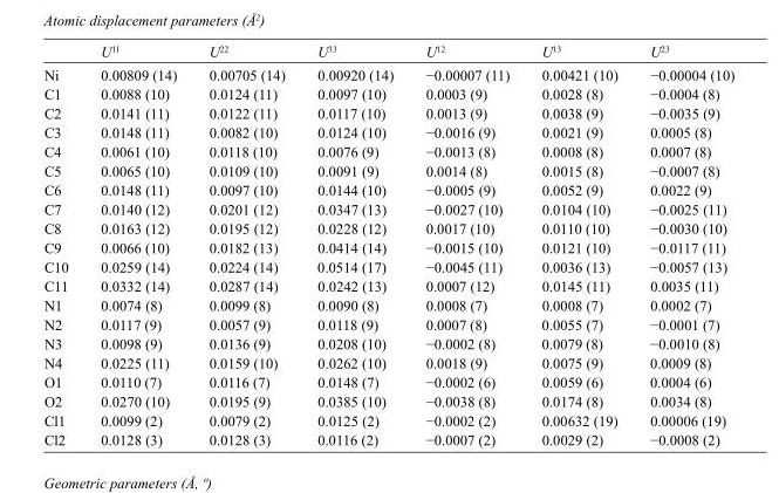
<table><thead><tr><td></td><td>U<sup>11</sup></td><td>U<sup>22</sup></td><td>U<sup>33</sup></td><td>U<sup>12</sup></td><td>U<sup>13</sup></td><td>U<sup>23</sup></td></tr></thead><tbody><tr><td>Ni</td><td>0.00809 (14)</td><td>0.00705 (14)</td><td>0.00920 (14)</td><td>−0.00007 (11)</td><td>0.00421 (10)</td><td>−0.00004 (10)</td></tr><tr><td>C1</td><td>0.0088 (10)</td><td>0.0124 (11)</td><td>0.0097 (10)</td><td>0.0003 (9)</td><td>0.0028 (8)</td><td>−0.0004 (8)</td></tr><tr><td>C2</td><td>0.0141 (11)</td><td>0.0122 (11)</td><td>0.0117 (10)</td><td>0.0013 (9)</td><td>0.0038 (9)</td><td>−0.0035 (9)</td></tr><tr><td>C3</td><td>0.0148 (11)</td><td>0.0082 (10)</td><td>0.0124 (10)</td><td>−0.0016 (9)</td><td>0.0021 (9)</td><td>0.0005 (8)</td></tr><tr><td>C4</td><td>0.0061 (10)</td><td>0.0118 (10)</td><td>0.0076 (9)</td><td>−0.0013 (8)</td><td>0.0008 (8)</td><td>0.0007 (8)</td></tr><tr><td>C5</td><td>0.0065 (10)</td><td>0.0109 (10)</td><td>0.0091 (9)</td><td>0.0014 (8)</td><td>0.0015 (8)</td><td>−0.0007 (8)</td></tr><tr><td>C6</td><td>0.0148 (11)</td><td>0.0097 (10)</td><td>0.0144 (10)</td><td>−0.0005 (9)</td><td>0.0052 (9)</td><td>0.0022 (9)</td></tr><tr><td>C7</td><td>0.0140 (12)</td><td>0.0201 (12)</td><td>0.0347 (13)</td><td>−0.0027 (10)</td><td>0.0104 (10)</td><td>−0.0025 (11)</td></tr><tr><td>C8</td><td>0.0163 (12)</td><td>0.0195 (12)</td><td>0.0228 (12)</td><td>0.0017 (10)</td><td>0.0110 (10)</td><td>−0.0030 (10)</td></tr><tr><td>C9</td><td>0.0066 (10)</td><td>0.0182 (13)</td><td>0.0414 (14)</td><td>−0.0015 (10)</td><td>0.0121 (10)</td><td>−0.0117 (11)</td></tr><tr><td>C10</td><td>0.0259 (14)</td><td>0.0224 (14)</td><td>0.0514 (17)</td><td>−0.0045 (11)</td><td>0.0036 (13)</td><td>−0.0057 (13)</td></tr><tr><td>C11</td><td>0.0332 (14)</td><td>0.0287 (14)</td><td>0.0242 (13)</td><td>0.0007 (12)</td><td>0.0145 (11)</td><td>0.0035 (11)</td></tr><tr><td>N1</td><td>0.0074 (8)</td><td>0.0099 (8)</td><td>0.0090 (8)</td><td>0.0008 (7)</td><td>0.0008 (7)</td><td>0.0002 (7)</td></tr><tr><td>N2</td><td>0.0117 (9)</td><td>0.0057 (9)</td><td>0.0118 (9)</td><td>0.0007 (8)</td><td>0.0055 (7)</td><td>−0.0001 (7)</td></tr><tr><td>N3</td><td>0.0098 (9)</td><td>0.0136 (9)</td><td>0.0208 (10)</td><td>−0.0002 (8)</td><td>0.0079 (8)</td><td>−0.0010 (8)</td></tr><tr><td>N4</td><td>0.0225 (11)</td><td>0.0159 (10)</td><td>0.0262 (10)</td><td>0.0018 (9)</td><td>0.0075 (9)</td><td>0.0009 (8)</td></tr><tr><td>O1</td><td>0.0110 (7)</td><td>0.0116 (7)</td><td>0.0148 (7)</td><td>−0.0002 (6)</td><td>0.0059 (6)</td><td>0.0004 (6)</td></tr><tr><td>O2</td><td>0.0270 (10)</td><td>0.0195 (9)</td><td>0.0385 (10)</td><td>−0.0038 (8)</td><td>0.0174 (8)</td><td>0.0034 (8)</td></tr><tr><td>Cl1</td><td>0.0099 (2)</td><td>0.0079 (2)</td><td>0.0125 (2)</td><td>−0.0002 (2)</td><td>0.00632 (19)</td><td>0.00006 (19)</td></tr><tr><td>Cl2</td><td>0.0128 (3)</td><td>0.0128 (3)</td><td>0.0116 (2)</td><td>−0.0007 (2)</td><td>0.0029 (2)</td><td>−0.0008 (2)</td></tr></tbody></table>